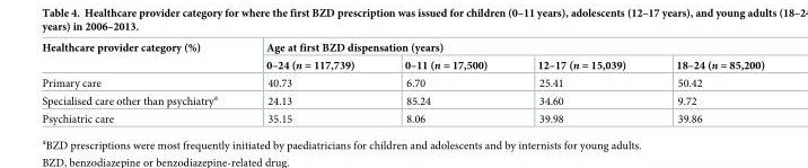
<table><thead><tr><td rowspan="2">Healthcare provider category (%)</td><td colspan="4">Age at first BZD dispensation (years)</td></tr><tr><td>0–24 (n = 117,739)</td><td>0–11 (n = 17,500)</td><td>12–17 (n = 15,039)</td><td>18–24 (n = 85,200)</td></tr></thead><tbody><tr><td>Primary care</td><td>40.73</td><td>6.70</td><td>25.41</td><td>50.42</td></tr><tr><td>Specialised care other than psychiatry<sup>a</sup></td><td>24.13</td><td>85.24</td><td>34.60</td><td>9.72</td></tr><tr><td>Psychiatric care</td><td>35.15</td><td>8.06</td><td>39.98</td><td>39.86</td></tr></tbody></table>